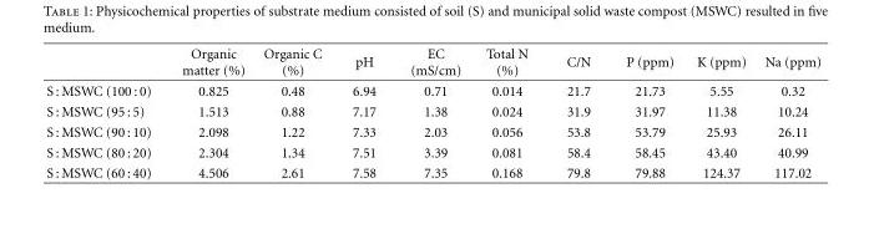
<table><thead><tr><td></td><td>Organic matter (%)</td><td>Organic C (%)</td><td>pH</td><td>EC (mS/cm)</td><td>Total N (%)</td><td>C/N</td><td>P (ppm)</td><td>K (ppm)</td><td>Na (ppm)</td></tr></thead><tbody><tr><td>S : MSWC (100 : 0)</td><td>0.825</td><td>0.48</td><td>6.94</td><td>0.71</td><td>0.014</td><td>21.7</td><td>21.73</td><td>5.55</td><td>0.32</td></tr><tr><td>S : MSWC (95 : 5)</td><td>1.513</td><td>0.88</td><td>7.17</td><td>1.38</td><td>0.024</td><td>31.9</td><td>31.97</td><td>11.38</td><td>10.24</td></tr><tr><td>S : MSWC (90 : 10)</td><td>2.098</td><td>1.22</td><td>7.33</td><td>2.03</td><td>0.056</td><td>53.8</td><td>53.79</td><td>25.93</td><td>26.11</td></tr><tr><td>S : MSWC (80 : 20)</td><td>2.304</td><td>1.34</td><td>7.51</td><td>3.39</td><td>0.081</td><td>58.4</td><td>58.45</td><td>43.40</td><td>40.99</td></tr><tr><td>S : MSWC (60 : 40)</td><td>4.506</td><td>2.61</td><td>7.58</td><td>7.35</td><td>0.168</td><td>79.8</td><td>79.88</td><td>124.37</td><td>117.02</td></tr></tbody></table>